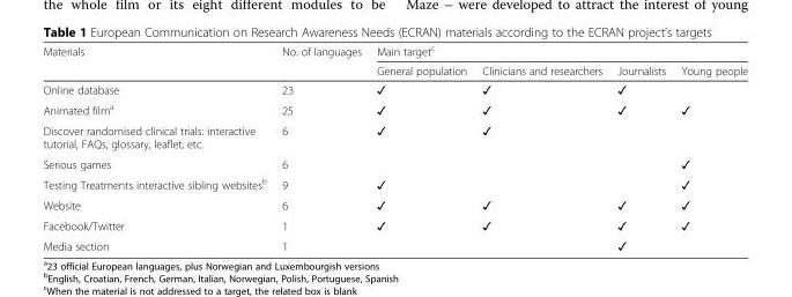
<table><thead><tr><td rowspan="2">Materials</td><td rowspan="2">No. of languages</td><td colspan="4">Main target<sup>c</sup></td></tr><tr><td>General population</td><td>Clinicians and researchers</td><td>Journalists</td><td>Young people</td></tr></thead><tbody><tr><td>Online database</td><td>23</td><td>✓</td><td>✓</td><td>✓</td><td></td></tr><tr><td>Animated film<sup>a</sup></td><td>25</td><td>✓</td><td>✓</td><td>✓</td><td>✓</td></tr><tr><td>Discover randomised clinical trials: interactive tutorial, FAQs, glossary, leaflet, etc.</td><td>6</td><td>✓</td><td>✓</td><td></td><td></td></tr><tr><td>Serious games</td><td>6</td><td></td><td></td><td></td><td>✓</td></tr><tr><td>Testing Treatments interactive sibling websites<sup>b</sup></td><td>9</td><td>✓</td><td></td><td></td><td>✓</td></tr><tr><td>Website</td><td>6</td><td>✓</td><td>✓</td><td>✓</td><td>✓</td></tr><tr><td>Facebook/Twitter</td><td>1</td><td>✓</td><td>✓</td><td>✓</td><td>✓</td></tr><tr><td>Media section</td><td>1</td><td></td><td></td><td>✓</td><td></td></tr></tbody></table>